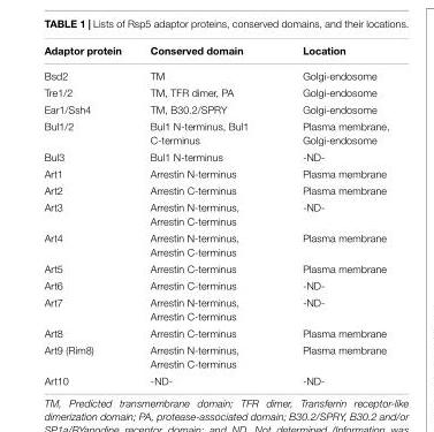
<table><thead><tr><td>Adaptor protein</td><td>Conserved domain</td><td>Location</td></tr></thead><tbody><tr><td>Bsd2</td><td>TM</td><td>Golgi-endosome</td></tr><tr><td>Tre1/2</td><td>TM, TFR dimer, PA</td><td>Golgi-endosome</td></tr><tr><td>Ear1/Ssh4</td><td>TM, B30.2/SPRY</td><td>Golgi-endosome</td></tr><tr><td>Bul1/2</td><td>Bul1 N-terminus, Bul1 C-terminus</td><td>Plasma membrane, Golgi-endosome</td></tr><tr><td>Bul3</td><td>Bul1 N-terminus</td><td>-ND-</td></tr><tr><td>Art1</td><td>Arrestin N-terminus</td><td>Plasma membrane</td></tr><tr><td>Art2</td><td>Arrestin C-terminus</td><td>Plasma membrane</td></tr><tr><td>Art3</td><td>Arrestin N-terminus, Arrestin C-terminus</td><td>-ND-</td></tr><tr><td>Art4</td><td>Arrestin N-terminus, Arrestin C-terminus</td><td>Plasma membrane</td></tr><tr><td>Art5</td><td>Arrestin C-terminus</td><td>Plasma membrane</td></tr><tr><td>Art6</td><td>Arrestin C-terminus</td><td>-ND-</td></tr><tr><td>Art7</td><td>Arrestin N-terminus, Arrestin C-terminus</td><td>-ND-</td></tr><tr><td>Art8</td><td>Arrestin C-terminus</td><td>Plasma membrane</td></tr><tr><td>Art9 (Rim8)</td><td>Arrestin N-terminus, Arrestin C-terminus</td><td>Plasma membrane</td></tr><tr><td>Art10</td><td>-ND-</td><td>-ND-</td></tr></tbody></table>